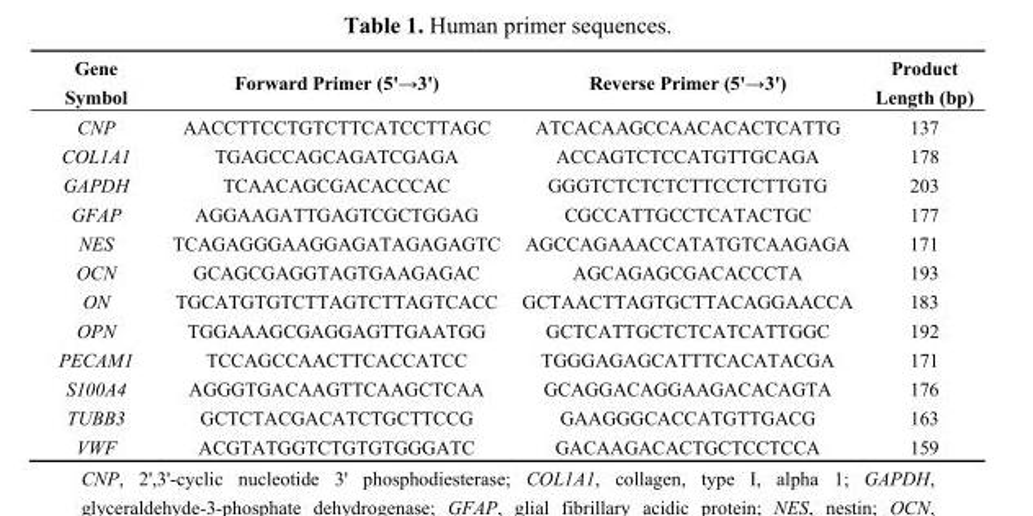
<table><thead><tr><td>Gene Symbol</td><td>Forward Primer (5&#x27;→3&#x27;)</td><td>Reverse Primer (5&#x27;→3&#x27;)</td><td>Product Length (bp)</td></tr></thead><tbody><tr><td>CNP</td><td>AACCTTCCTGTCTTCATCCTTAGC</td><td>ATCACAAGCCAACACACTCATTG</td><td>137</td></tr><tr><td>COL1A1</td><td>TGAGCCAGCAGATCGAGA</td><td>ACCAGTCTCCATGTTGCAGA</td><td>178</td></tr><tr><td>GAPDH</td><td>TCAACAGCGACACCCAC</td><td>GGGTCTCTCTCTTCCTCTTGTG</td><td>203</td></tr><tr><td>GFAP</td><td>AGGAAGATTGAGTCGCTGGAG</td><td>CGCCATTGCCTCATACTGC</td><td>177</td></tr><tr><td>NES</td><td>TCAGAGGGAAGGAGATAGAGAGTC</td><td>AGCCAGAAACCATATGTCAAGAGA</td><td>171</td></tr><tr><td>OCN</td><td>GCAGCGAGGTAGTGAAGAGAC</td><td>AGCAGAGCGACACCCTA</td><td>193</td></tr><tr><td>ON</td><td>TGCATGTGTCTTAGTCTTAGTCACC</td><td>GCTAACTTAGTGCTTACAGGAACCA</td><td>183</td></tr><tr><td>OPN</td><td>TGGAAAGCGAGGAGTTGAATGG</td><td>GCTCATTGCTCTCATCATTGGC</td><td>192</td></tr><tr><td>PECAM1</td><td>TCCAGCCAACTTCACCATCC</td><td>TGGGAGAGCATTTCACATACGA</td><td>171</td></tr><tr><td>S100A4</td><td>AGGGTGACAAGTTCAAGCTCAA</td><td>GCAGGACAGGAAGACACAGTA</td><td>176</td></tr><tr><td>TUBB3</td><td>GCTCTACGACATCTGCTTCCG</td><td>GAAGGGCACCATGTTGACG</td><td>163</td></tr><tr><td>VWF</td><td>ACGTATGGTCTGTGTGGGATC</td><td>GACAAGACACTGCTCCTCCA</td><td>159</td></tr></tbody></table>